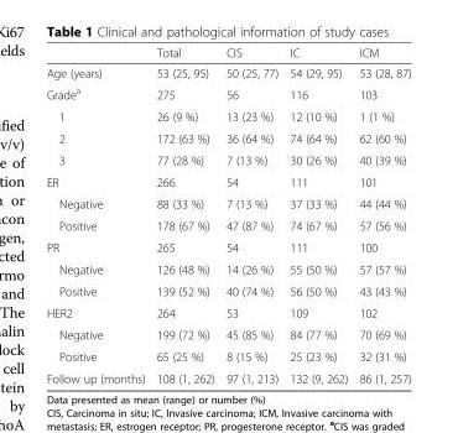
<table><thead><tr><td></td><td>Total</td><td>CIS</td><td>IC</td><td>ICM</td></tr></thead><tbody><tr><td>Age (years)</td><td>53 (25, 95)</td><td>50 (25, 77)</td><td>54 (29, 95)</td><td>53 (28, 87)</td></tr><tr><td>Grade<sup>a</sup></td><td>275</td><td>56</td><td>116</td><td>103</td></tr><tr><td>1</td><td>26 (9 %)</td><td>13 (23 %)</td><td>12 (10 %)</td><td>1 (1 %)</td></tr><tr><td>2</td><td>172 (63 %)</td><td>36 (64 %)</td><td>74 (64 %)</td><td>62 (60 %)</td></tr><tr><td>3</td><td>77 (28 %)</td><td>7 (13 %)</td><td>30 (26 %)</td><td>40 (39 %)</td></tr><tr><td>ER</td><td>266</td><td>54</td><td>111</td><td>101</td></tr><tr><td>Negative</td><td>88 (33 %)</td><td>7 (13 %)</td><td>37 (33 %)</td><td>44 (44 %)</td></tr><tr><td>Positive</td><td>178 (67 %)</td><td>47 (87 %)</td><td>74 (67 %)</td><td>57 (56 %)</td></tr><tr><td>PR</td><td>265</td><td>54</td><td>111</td><td>100</td></tr><tr><td>Negative</td><td>126 (48 %)</td><td>14 (26 %)</td><td>55 (50 %)</td><td>57 (57 %)</td></tr><tr><td>Positive</td><td>139 (52 %)</td><td>40 (74 %)</td><td>56 (50 %)</td><td>43 (43 %)</td></tr><tr><td>HER2</td><td>264</td><td>53</td><td>109</td><td>102</td></tr><tr><td>Negative</td><td>199 (72 %)</td><td>45 (85 %)</td><td>84 (77 %)</td><td>70 (69 %)</td></tr><tr><td>Positive</td><td>65 (25 %)</td><td>8 (15 %)</td><td>25 (23 %)</td><td>32 (31 %)</td></tr><tr><td>Follow up (months)</td><td>108 (1, 262)</td><td>97 (1, 213)</td><td>132 (9, 262)</td><td>86 (1, 257)</td></tr></tbody></table>